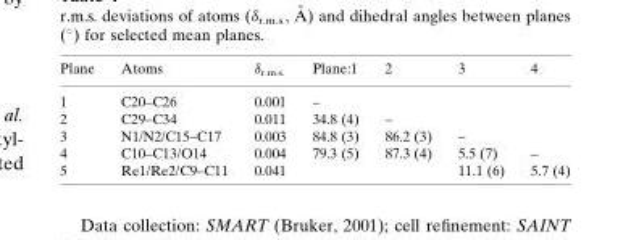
<table><tbody><tr><td>Plane</td><td>Atoms</td><td>�r.m.s.</td><td>Plane:1</td><td>2</td><td>3</td><td>4</td></tr><tr><td>1</td><td>C20–C26</td><td>0.001</td><td>–</td><td></td><td></td><td></td></tr><tr><td>2</td><td>C29–C34</td><td>0.011</td><td>34.8 (4)</td><td>–</td><td></td><td></td></tr><tr><td>3</td><td>N1/N2/C15–C17</td><td>0.003</td><td>84.8 (3)</td><td>86.2 (3)</td><td>–</td><td></td></tr><tr><td>4</td><td>C10–C13/O14</td><td>0.004</td><td>79.3 (5)</td><td>87.3 (4)</td><td>5.5 (7)</td><td>–</td></tr><tr><td>5</td><td>Re1/Re2/C9–C11</td><td>0.041</td><td></td><td></td><td>11.1 (6)</td><td>5.7 (4)</td></tr></tbody></table>